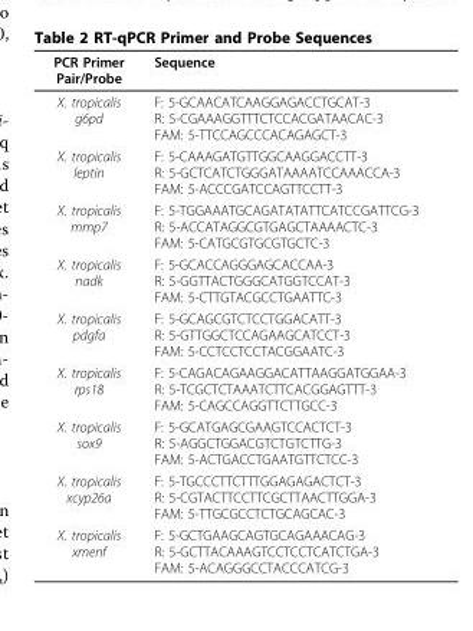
<table><thead><tr><td>PCR Primer Pair/Probe</td><td>Sequence</td></tr></thead><tbody><tr><td>X. tropicalis g6pd</td><td>F: 5-GCAACATCAAGGAGACCTGCAT-3 R: 5-CGAAAGGTTTCTCCACGATAACAC-3 FAM: 5-TTCCAGCCCACAGAGCT-3</td></tr><tr><td>X. tropicalis leptin</td><td>F: 5-CAAAGATGTTGGCAAGGACCTT-3 R: 5-GCTCATCTGGGATAAAATCCAAACCA-3 FAM: 5-ACCCGATCCAGTTCCTT-3</td></tr><tr><td>X. tropicalis mmp7</td><td>F: 5-TGGAAATGCAGATATATTCATCCGATTCG-3 R: 5-ACCATAGGCGTGAGCTAAAACTC-3 FAM: 5-CATGCGTGCGTGCTC-3</td></tr><tr><td>X. tropicalis nadk</td><td>F: 5-GCACCAGGGAGCACCAA-3 R: 5-GGTTACTGGGCATGGTCCAT-3 FAM: 5-CTTGTACGCCTGAATTC-3</td></tr><tr><td>X. tropicalis pdgfa</td><td>F: 5-GCAGCGTCTCCTGGACATT-3 R: 5-GTTGGCTCCAGAAGCATCCT-3 FAM: 5-CCTCCTCCTACGGAATC-3</td></tr><tr><td>X. tropicalis rps18</td><td>F: 5-CAGACAGAAGGACATTAAGGATGGAA-3 R: 5-TCGCTCTAAATCTTCACGGAGTTT-3 FAM: 5-CAGCCAGGTTCTTGCC-3</td></tr><tr><td>X. tropicalis sox9</td><td>F: 5-GCATGAGCGAAGTCCACTCT-3 R: 5-AGGCTGGACGTCTGTCTTG-3 FAM: 5-ACTGACCTGAATGTTCTCC-3</td></tr><tr><td>X. tropicalis xcyp26a</td><td>F: 5-TGCCCTTCTTTGGAGAGACTCT-3 R: 5-CGTACTTCCTTCGCTTAACTTGGA-3 FAM: 5-TTGCGCCTCTGCAGCAC-3</td></tr><tr><td>X. tropicalis xmenf</td><td>F: 5-GCTGAAGCAGTGCAGAAACAG-3 R: 5-GCTTACAAAGTCCTCCTCATCTGA-3 FAM: 5-ACAGGGCCTACCCATCG-3</td></tr></tbody></table>